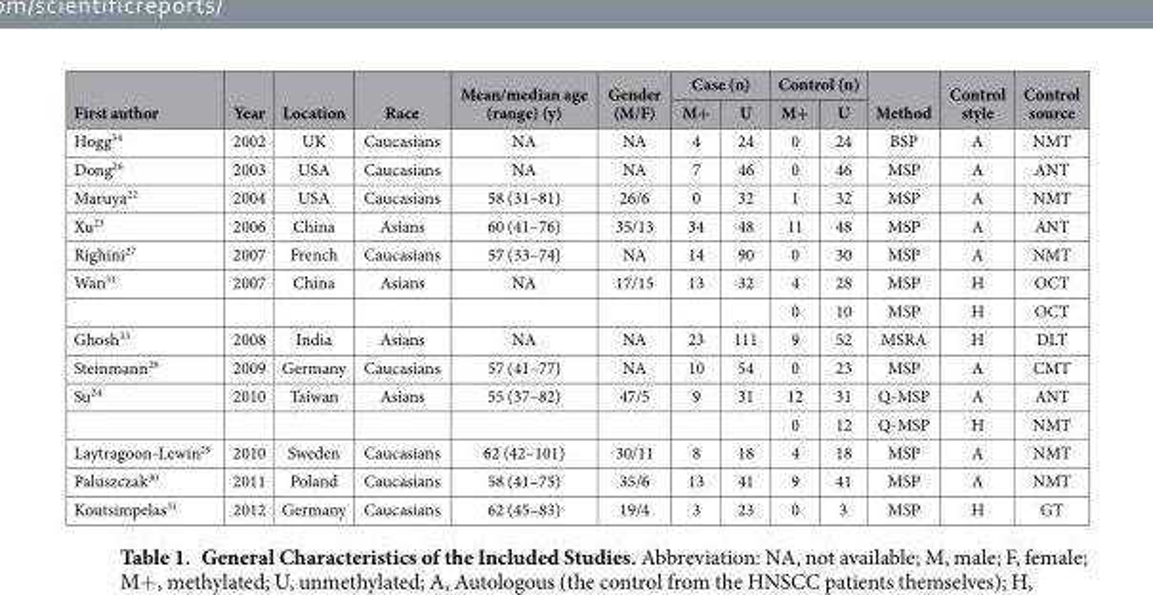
<table><thead><tr><td rowspan="2">First author</td><td rowspan="2">Year</td><td rowspan="2">Location</td><td rowspan="2">Race</td><td rowspan="2">Mean/median age (range) (y)</td><td rowspan="2">Gender (M/F)</td><td colspan="2">Case (n)</td><td colspan="2">Control (n)</td><td rowspan="2">Method</td><td rowspan="2">Control style</td><td rowspan="2">Control source</td></tr><tr><td>M+</td><td>U</td><td>M+</td><td>U</td></tr></thead><tbody><tr><td>Hogg<sup>34</sup></td><td>2002</td><td>UK</td><td>Caucasians</td><td>NA</td><td>NA</td><td>4</td><td>24</td><td>0</td><td>24</td><td>BSP</td><td>A</td><td>NMT</td></tr><tr><td>Dong<sup>26</sup></td><td>2003</td><td>USA</td><td>Caucasians</td><td>NA</td><td>NA</td><td>7</td><td>46</td><td>0</td><td>46</td><td>MSP</td><td>A</td><td>ANT</td></tr><tr><td>Maruya<sup>22</sup></td><td>2004</td><td>USA</td><td>Caucasians</td><td>58 (31–81)</td><td>26/6</td><td>0</td><td>32</td><td>1</td><td>32</td><td>MSP</td><td>A</td><td>NMT</td></tr><tr><td>Xu<sup>23</sup></td><td>2006</td><td>China</td><td>Asians</td><td>60 (41–76)</td><td>35/13</td><td>34</td><td>48</td><td>11</td><td>48</td><td>MSP</td><td>A</td><td>ANT</td></tr><tr><td>Righini<sup>27</sup></td><td>2007</td><td>French</td><td>Caucasians</td><td>57 (33–74)</td><td>NA</td><td>14</td><td>90</td><td>0</td><td>30</td><td>MSP</td><td>A</td><td>NMT</td></tr><tr><td rowspan="2">Wan<sup>31</sup></td><td>2007</td><td>China</td><td>Asians</td><td>NA</td><td>17/15</td><td>13</td><td>32</td><td>4</td><td>28</td><td>MSP</td><td>H</td><td>OCT</td></tr><tr><td></td><td></td><td></td><td></td><td></td><td></td><td></td><td>0</td><td>10</td><td>MSP</td><td>H</td><td>OCT</td></tr><tr><td>Ghosh<sup>33</sup></td><td>2008</td><td>India</td><td>Asians</td><td>NA</td><td>NA</td><td>23</td><td>111</td><td>9</td><td>52</td><td>MSRA</td><td>H</td><td>DLT</td></tr><tr><td>Steinmann<sup>28</sup></td><td>2009</td><td>Germany</td><td>Caucasians</td><td>57 (41–77)</td><td>NA</td><td>10</td><td>54</td><td>0</td><td>23</td><td>MSP</td><td>A</td><td>CMT</td></tr><tr><td rowspan="2">Su<sup>24</sup></td><td>2010</td><td>Taiwan</td><td>Asians</td><td>55 (37–82)</td><td>47/5</td><td>9</td><td>31</td><td>12</td><td>31</td><td>Q-MSP</td><td>A</td><td>ANT</td></tr><tr><td></td><td></td><td></td><td></td><td></td><td></td><td></td><td>0</td><td>12</td><td>Q-MSP</td><td>H</td><td>NMT</td></tr><tr><td>Laytragoon-Lewin<sup>29</sup></td><td>2010</td><td>Sweden</td><td>Caucasians</td><td>62 (42–101)</td><td>30/11</td><td>8</td><td>18</td><td>4</td><td>18</td><td>MSP</td><td>A</td><td>NMT</td></tr><tr><td>Paluszczak<sup>30</sup></td><td>2011</td><td>Poland</td><td>Caucasians</td><td>58 (41–75)</td><td>35/6</td><td>13</td><td>41</td><td>9</td><td>41</td><td>MSP</td><td>A</td><td>NMT</td></tr><tr><td>Koutsimpelas<sup>31</sup></td><td>2012</td><td>Germany</td><td>Caucasians</td><td>62 (45–83)</td><td>19/4</td><td>3</td><td>23</td><td>0</td><td>3</td><td>MSP</td><td>H</td><td>GT</td></tr></tbody></table>